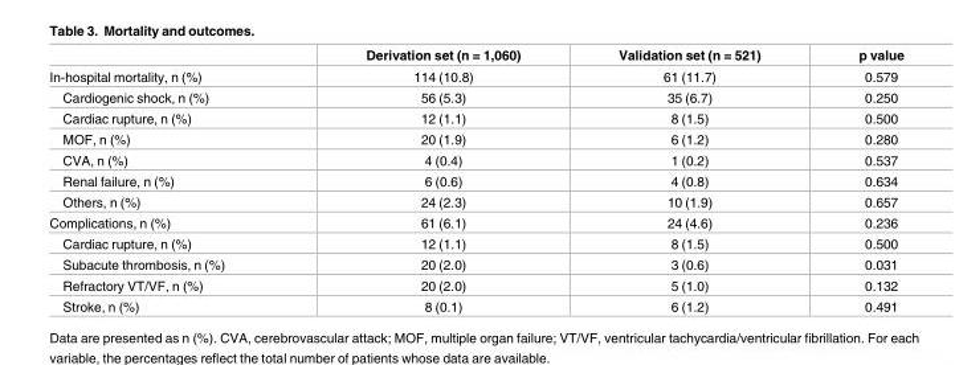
<table><thead><tr><td></td><td>Derivation set (n = 1,060)</td><td>Validation set (n = 521)</td><td>p value</td></tr></thead><tbody><tr><td>In-hospital mortality, n (%)</td><td>114 (10.8)</td><td>61 (11.7)</td><td>0.579</td></tr><tr><td>Cardiogenic shock, n (%)</td><td>56 (5.3)</td><td>35 (6.7)</td><td>0.250</td></tr><tr><td>Cardiac rupture, n (%)</td><td>12 (1.1)</td><td>8 (1.5)</td><td>0.500</td></tr><tr><td>MOF, n (%)</td><td>20 (1.9)</td><td>6 (1.2)</td><td>0.280</td></tr><tr><td>CVA, n (%)</td><td>4 (0.4)</td><td>1 (0.2)</td><td>0.537</td></tr><tr><td>Renal failure, n (%)</td><td>6 (0.6)</td><td>4 (0.8)</td><td>0.634</td></tr><tr><td>Others, n (%)</td><td>24 (2.3)</td><td>10 (1.9)</td><td>0.657</td></tr><tr><td>Complications, n (%)</td><td>61 (6.1)</td><td>24 (4.6)</td><td>0.236</td></tr><tr><td>Cardiac rupture, n (%)</td><td>12 (1.1)</td><td>8 (1.5)</td><td>0.500</td></tr><tr><td>Subacute thrombosis, n (%)</td><td>20 (2.0)</td><td>3 (0.6)</td><td>0.031</td></tr><tr><td>Refractory VT/VF, n (%)</td><td>20 (2.0)</td><td>5 (1.0)</td><td>0.132</td></tr><tr><td>Stroke, n (%)</td><td>8 (0.1)</td><td>6 (1.2)</td><td>0.491</td></tr></tbody></table>